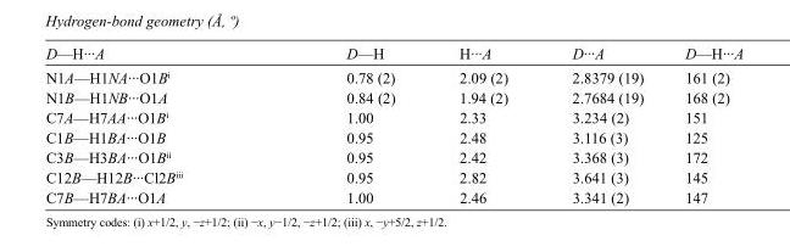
<table><tbody><tr><td>D—H···A</td><td>D—H</td><td>H···A</td><td>D···A</td><td>D—H···A</td></tr><tr><td>N1A—H1NA···O1B<sup>i</sup></td><td>0.78 (2)</td><td>2.09 (2)</td><td>2.8379 (19)</td><td>161 (2)</td></tr><tr><td>N1B—H1NB···O1A</td><td>0.84 (2)</td><td>1.94 (2)</td><td>2.7684 (19)</td><td>168 (2)</td></tr><tr><td>C7A—H7AA···O1B<sup>i</sup></td><td>1.00</td><td>2.33</td><td>3.234 (2)</td><td>151</td></tr><tr><td>C1B—H1BA···O1B</td><td>0.95</td><td>2.48</td><td>3.116 (3)</td><td>125</td></tr><tr><td>C3B—H3BA···O1B<sup>ii</sup></td><td>0.95</td><td>2.42</td><td>3.368 (3)</td><td>172</td></tr><tr><td>C12B—H12B···Cl2B<sup>iii</sup></td><td>0.95</td><td>2.82</td><td>3.641 (3)</td><td>145</td></tr><tr><td>C7B—H7BA···O1A</td><td>1.00</td><td>2.46</td><td>3.341 (2)</td><td>147</td></tr></tbody></table>